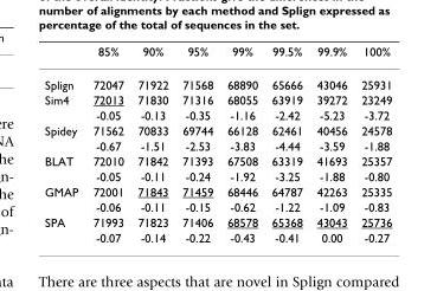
<table><thead><tr><td></td><td>85%</td><td>90%</td><td>95%</td><td>99%</td><td>99.5%</td><td>99.9%</td><td>100%</td></tr></thead><tbody><tr><td>Splign</td><td>72047</td><td>71922</td><td>71568</td><td>68890</td><td>65666</td><td>43046</td><td>25931</td></tr><tr><td rowspan="2">Sim4</td><td>72013</td><td>71830</td><td>71316</td><td>68055</td><td>63919</td><td>39272</td><td>23249</td></tr><tr><td>-0.05</td><td>-0.13</td><td>-0.35</td><td>-1.16</td><td>-2.42</td><td>-5.23</td><td>-3.72</td></tr><tr><td rowspan="2">Spidey</td><td>71562</td><td>70833</td><td>69744</td><td>66128</td><td>62461</td><td>40456</td><td>24578</td></tr><tr><td>-0.67</td><td>-1.51</td><td>-2.53</td><td>-3.83</td><td>-4.44</td><td>-3.59</td><td>-1.88</td></tr><tr><td rowspan="2">BLAT</td><td>72010</td><td>71842</td><td>71393</td><td>67508</td><td>63319</td><td>41693</td><td>25357</td></tr><tr><td>-0.05</td><td>-0.11</td><td>-0.24</td><td>-1.92</td><td>-3.25</td><td>-1.88</td><td>-0.80</td></tr><tr><td rowspan="2">GMAP</td><td>72001</td><td>71843</td><td>71459</td><td>68446</td><td>64787</td><td>42263</td><td>25335</td></tr><tr><td>-0.06</td><td>-0.11</td><td>-0.15</td><td>-0.62</td><td>-1.22</td><td>-1.09</td><td>-0.83</td></tr><tr><td rowspan="2">SPA</td><td>71993</td><td>71823</td><td>71406</td><td>68578</td><td>65368</td><td>43043</td><td>25736</td></tr><tr><td>-0.07</td><td>-0.14</td><td>-0.22</td><td>-0.43</td><td>-0.41</td><td>0.00</td><td>-0.27</td></tr></tbody></table>